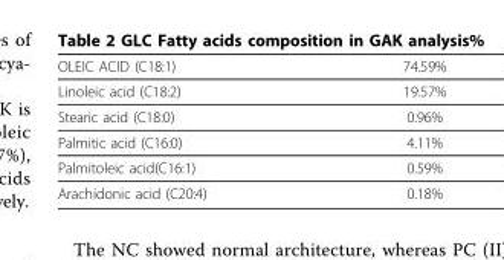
<table><thead><tr><td>OLEIC ACID (C18:1)</td><td>74.59%</td></tr></thead><tbody><tr><td>Linoleic acid (C18:2)</td><td>19.57%</td></tr><tr><td>Stearic acid (C18:0)</td><td>0.96%</td></tr><tr><td>Palmitic acid (C16:0)</td><td>4.11%</td></tr><tr><td>Palmitoleic acid(C16:1)</td><td>0.59%</td></tr><tr><td>Arachidonic acid (C20:4)</td><td>0.18%</td></tr></tbody></table>